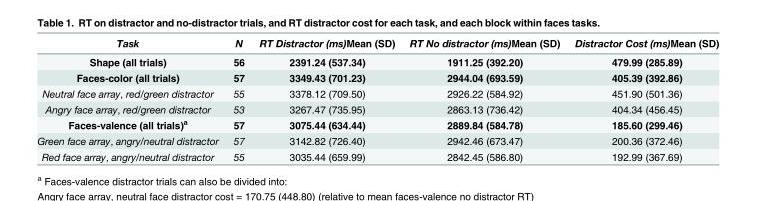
<table><thead><tr><td>Task</td><td>N</td><td>RT Distractor (ms)Mean (SD)</td><td>RT No distractor (ms)Mean (SD)</td><td>Distractor Cost (ms)Mean (SD)</td></tr></thead><tbody><tr><td>Shape (all trials)</td><td>56</td><td>2391.24 (537.34)</td><td>1911.25 (392.20)</td><td>479.99 (285.89)</td></tr><tr><td>Faces-color (all trials)</td><td>57</td><td>3349.43 (701.23)</td><td>2944.04 (693.59)</td><td>405.39 (392.86)</td></tr><tr><td>Neutral face array, red/green distractor</td><td>55</td><td>3378.12 (709.50)</td><td>2926.22 (584.92)</td><td>451.90 (501.36)</td></tr><tr><td>Angry face array, red/green distractor</td><td>53</td><td>3267.47 (735.95)</td><td>2863.13 (736.42)</td><td>404.34 (456.45)</td></tr><tr><td>Faces-valence (all trials)<sup>a</sup></td><td>57</td><td>3075.44 (634.44)</td><td>2889.84 (584.78)</td><td>185.60 (299.46)</td></tr><tr><td>Green face array, angry/neutral distractor</td><td>57</td><td>3142.82 (726.40)</td><td>2942.46 (673.47)</td><td>200.36 (372.46)</td></tr><tr><td>Red face array, angry/neutral distractor</td><td>55</td><td>3035.44 (659.99)</td><td>2842.45 (586.80)</td><td>192.99 (367.69)</td></tr></tbody></table>